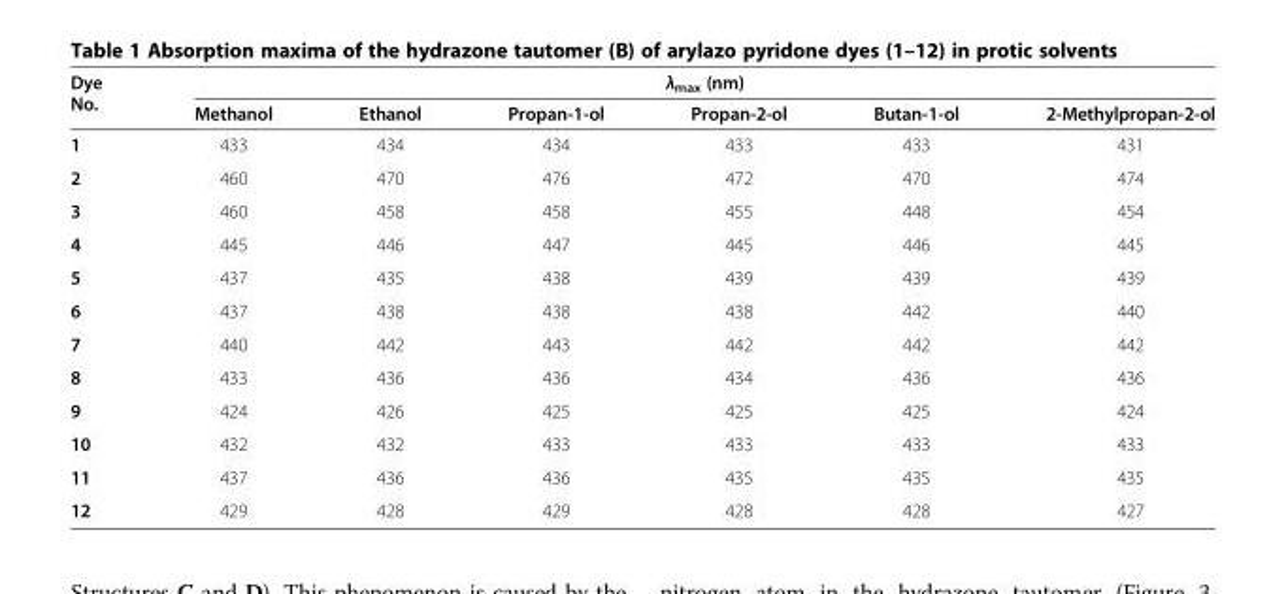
<table><thead><tr><td rowspan="2">Dye No.</td><td colspan="6">λ<sub>max</sub> (nm)</td></tr><tr><td>Methanol</td><td>Ethanol</td><td>Propan-1-ol</td><td>Propan-2-ol</td><td>Butan-1-ol</td><td>2-Methylpropan-2-ol</td></tr></thead><tbody><tr><td>1</td><td>433</td><td>434</td><td>434</td><td>433</td><td>433</td><td>431</td></tr><tr><td>2</td><td>460</td><td>470</td><td>476</td><td>472</td><td>470</td><td>474</td></tr><tr><td>3</td><td>460</td><td>458</td><td>458</td><td>455</td><td>448</td><td>454</td></tr><tr><td>4</td><td>445</td><td>446</td><td>447</td><td>445</td><td>446</td><td>445</td></tr><tr><td>5</td><td>437</td><td>435</td><td>438</td><td>439</td><td>439</td><td>439</td></tr><tr><td>6</td><td>437</td><td>438</td><td>438</td><td>438</td><td>442</td><td>440</td></tr><tr><td>7</td><td>440</td><td>442</td><td>443</td><td>442</td><td>442</td><td>442</td></tr><tr><td>8</td><td>433</td><td>436</td><td>436</td><td>434</td><td>436</td><td>436</td></tr><tr><td>9</td><td>424</td><td>426</td><td>425</td><td>425</td><td>425</td><td>424</td></tr><tr><td>10</td><td>432</td><td>432</td><td>433</td><td>433</td><td>433</td><td>433</td></tr><tr><td>11</td><td>437</td><td>436</td><td>436</td><td>435</td><td>435</td><td>435</td></tr><tr><td>12</td><td>429</td><td>428</td><td>429</td><td>428</td><td>428</td><td>427</td></tr></tbody></table>